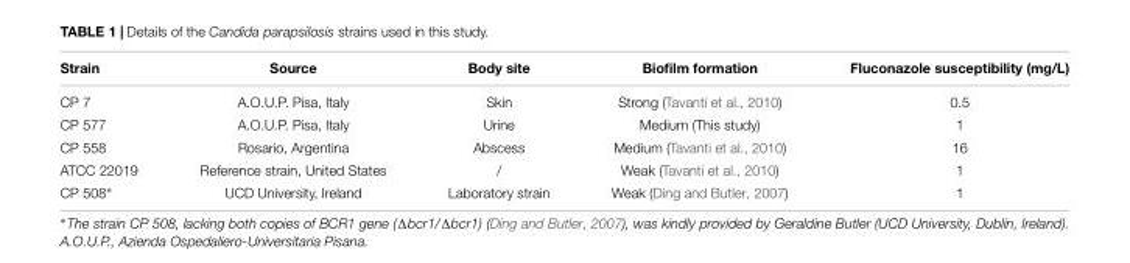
<table><thead><tr><td>Strain</td><td>Source</td><td>Body site</td><td>Biofilm formation</td><td>Fluconazole susceptibility (mg/L)</td></tr></thead><tbody><tr><td>CP 7</td><td>A.O.U.P. Pisa, Italy</td><td>Skin</td><td>Strong (Tavanti et al., 2010)</td><td>0.5</td></tr><tr><td>CP 577</td><td>A.O.U.P. Pisa, Italy</td><td>Urine</td><td>Medium (This study)</td><td>1</td></tr><tr><td>CP 558</td><td>Rosario, Argentina</td><td>Abscess</td><td>Medium (Tavanti et al., 2010)</td><td>16</td></tr><tr><td>ATCC 22019</td><td>Reference strain, United States</td><td>/</td><td>Weak (Tavanti et al., 2010)</td><td>1</td></tr><tr><td>CP 508∗</td><td>UCD University, Ireland</td><td>Laboratory strain</td><td>Weak (Ding and Butler, 2007)</td><td>1</td></tr></tbody></table>